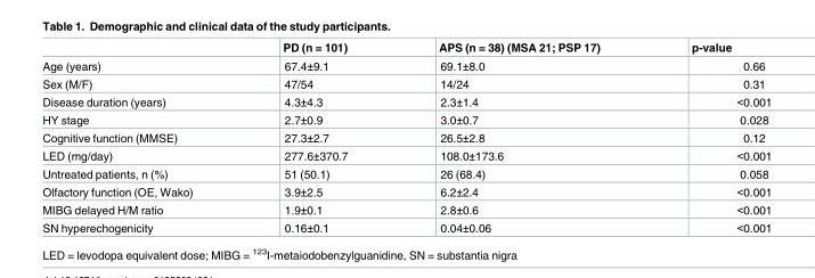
<table><thead><tr><td></td><td>PD (n = 101)</td><td>APS (n = 38) (MSA 21; PSP 17)</td><td>p-value</td></tr></thead><tbody><tr><td>Age (years)</td><td>67.4±9.1</td><td>69.1±8.0</td><td>0.66</td></tr><tr><td>Sex (M/F)</td><td>47/54</td><td>14/24</td><td>0.31</td></tr><tr><td>Disease duration (years)</td><td>4.3±4.3</td><td>2.3±1.4</td><td>&lt;0.001</td></tr><tr><td>HY stage</td><td>2.7±0.9</td><td>3.0±0.7</td><td>0.028</td></tr><tr><td>Cognitive function (MMSE)</td><td>27.3±2.7</td><td>26.5±2.8</td><td>0.12</td></tr><tr><td>LED (mg/day)</td><td>277.6±370.7</td><td>108.0±173.6</td><td>&lt;0.001</td></tr><tr><td>Untreated patients, n (%)</td><td>51 (50.1)</td><td>26 (68.4)</td><td>0.058</td></tr><tr><td>Olfactory function (OE, Wako)</td><td>3.9±2.5</td><td>6.2±2.4</td><td>&lt;0.001</td></tr><tr><td>MIBG delayed H/M ratio</td><td>1.9±0.1</td><td>2.8±0.6</td><td>&lt;0.001</td></tr><tr><td>SN hyperechogenicity</td><td>0.16±0.1</td><td>0.04±0.06</td><td>&lt;0.001</td></tr></tbody></table>